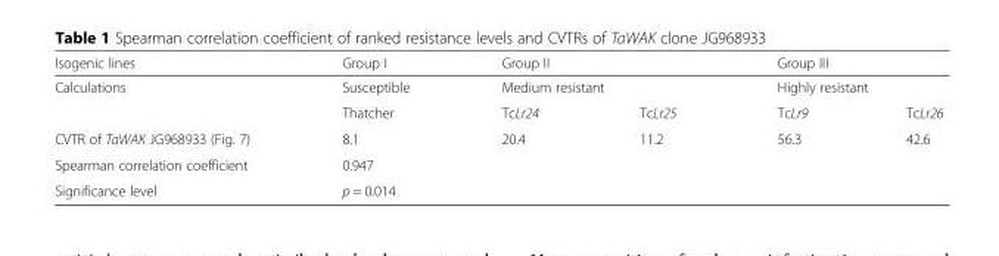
<table><thead><tr><td rowspan="3">Isogenic lines Calculations</td><td rowspan="3">Group I Susceptible Thatcher</td><td rowspan="2" colspan="2">Group II Medium resistant</td><td rowspan="2" colspan="2">Group III Highly resistant</td></tr><tr></tr><tr><td>TcLr24</td><td>TcLr25</td><td>TcLr9</td><td>TcLr26</td></tr></thead><tbody><tr><td>CVTR of TaWAK JG968933 (Fig. 7)</td><td>8.1</td><td>20.4</td><td>11.2</td><td>56.3</td><td>42.6</td></tr><tr><td>Spearman correlation coefficient</td><td colspan="5">0.947</td></tr><tr><td>Significance level</td><td colspan="5">p = 0.014</td></tr></tbody></table>